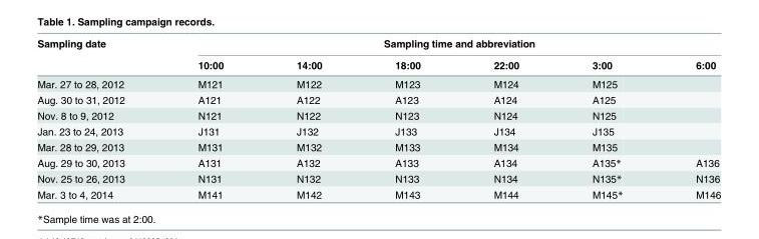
<table><thead><tr><td rowspan="2">Sampling date</td><td colspan="6">Sampling time and abbreviation</td></tr><tr><td>10:00</td><td>14:00</td><td>18:00</td><td>22:00</td><td>3:00</td><td>6:00</td></tr></thead><tbody><tr><td>Mar. 27 to 28, 2012</td><td>M121</td><td>M122</td><td>M123</td><td>M124</td><td>M125</td><td></td></tr><tr><td>Aug. 30 to 31, 2012</td><td>A121</td><td>A122</td><td>A123</td><td>A124</td><td>A125</td><td></td></tr><tr><td>Nov. 8 to 9, 2012</td><td>N121</td><td>N122</td><td>N123</td><td>N124</td><td>N125</td><td></td></tr><tr><td>Jan. 23 to 24, 2013</td><td>J131</td><td>J132</td><td>J133</td><td>J134</td><td>J135</td><td></td></tr><tr><td>Mar. 28 to 29, 2013</td><td>M131</td><td>M132</td><td>M133</td><td>M134</td><td>M135</td><td></td></tr><tr><td>Aug. 29 to 30, 2013</td><td>A131</td><td>A132</td><td>A133</td><td>A134</td><td>A135*</td><td>A136</td></tr><tr><td>Nov. 25 to 26, 2013</td><td>N131</td><td>N132</td><td>N133</td><td>N134</td><td>N135*</td><td>N136</td></tr><tr><td>Mar. 3 to 4, 2014</td><td>M141</td><td>M142</td><td>M143</td><td>M144</td><td>M145*</td><td>M146</td></tr></tbody></table>